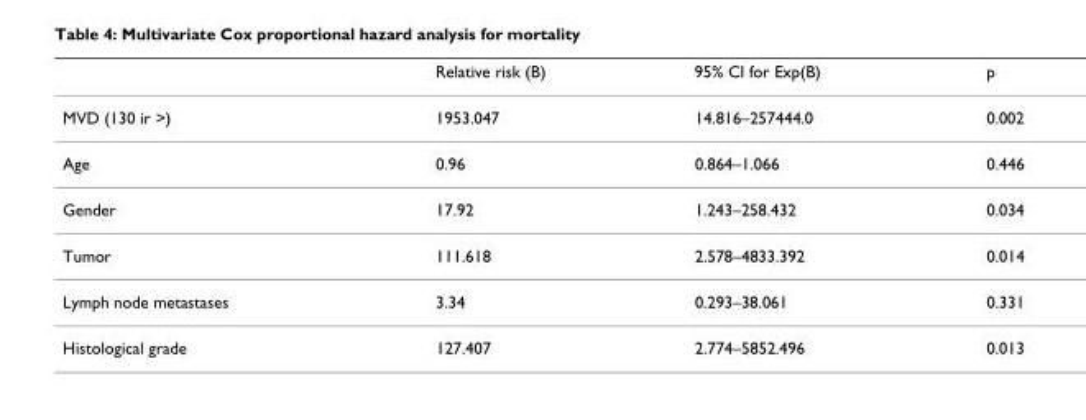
<table><thead><tr><td></td><td>Relative risk (B)</td><td>95% CI for Exp(B)</td><td>p</td></tr></thead><tbody><tr><td>MVD (130 ir &gt;)</td><td>1953.047</td><td>14.816–257444.0</td><td>0.002</td></tr><tr><td>Age</td><td>0.96</td><td>0.864–1.066</td><td>0.446</td></tr><tr><td>Gender</td><td>17.92</td><td>1.243–258.432</td><td>0.034</td></tr><tr><td>Tumor</td><td>111.618</td><td>2.578–4833.392</td><td>0.014</td></tr><tr><td>Lymph node metastases</td><td>3.34</td><td>0.293–38.061</td><td>0.331</td></tr><tr><td>Histological grade</td><td>127.407</td><td>2.774–5852.496</td><td>0.013</td></tr></tbody></table>